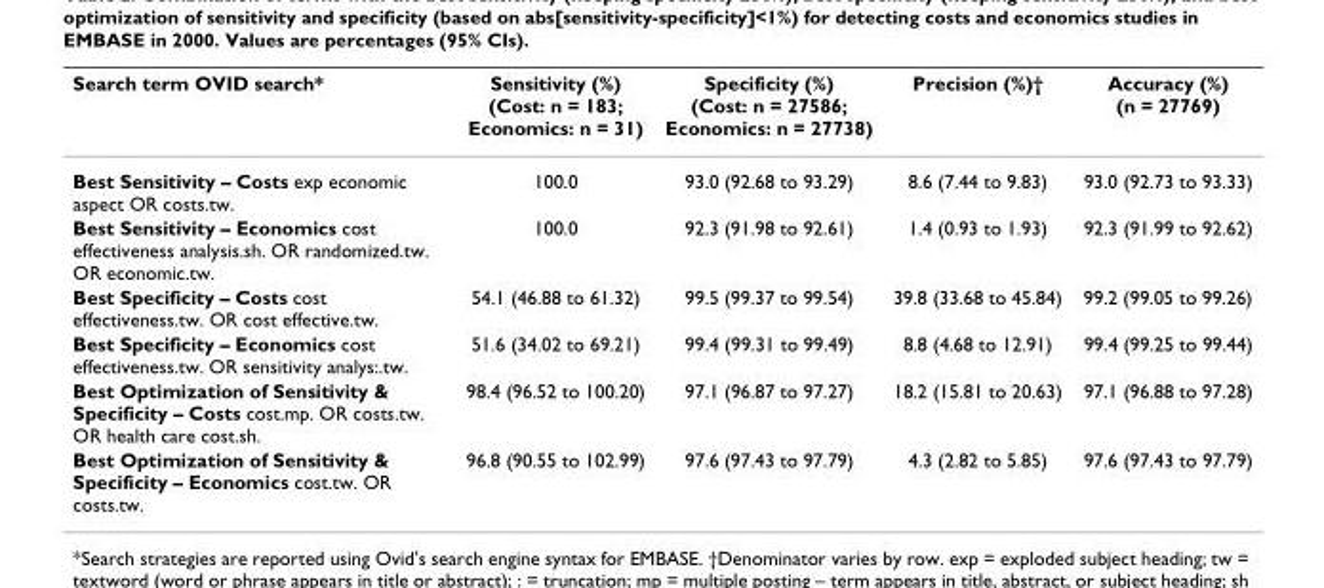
<table><thead><tr><td>Search term OVID search*</td><td>Sensitivity (%) (Cost: n = 183; Economics: n = 31)</td><td>Specificity (%) (Cost: n = 27586; Economics: n = 27738)</td><td>Precision (%)†</td><td>Accuracy (%) (n = 27769)</td></tr></thead><tbody><tr><td>Best Sensitivity – Costs exp economic aspect OR costs.tw.</td><td>100.0</td><td>93.0 (92.68 to 93.29)</td><td>8.6 (7.44 to 9.83)</td><td>93.0 (92.73 to 93.33)</td></tr><tr><td>Best Sensitivity – Economics cost effectiveness analysis.sh. OR randomized.tw. OR economic.tw.</td><td>100.0</td><td>92.3 (91.98 to 92.61)</td><td>1.4 (0.93 to 1.93)</td><td>92.3 (91.99 to 92.62)</td></tr><tr><td>Best Specificity – Costs cost effectiveness.tw. OR cost effective.tw.</td><td>54.1 (46.88 to 61.32)</td><td>99.5 (99.37 to 99.54)</td><td>39.8 (33.68 to 45.84)</td><td>99.2 (99.05 to 99.26)</td></tr><tr><td>Best Specificity – Economics cost effectiveness.tw. OR sensitivity analys:.tw.</td><td>51.6 (34.02 to 69.21)</td><td>99.4 (99.31 to 99.49)</td><td>8.8 (4.68 to 12.91)</td><td>99.4 (99.25 to 99.44)</td></tr><tr><td>Best Optimization of Sensitivity &amp; Specificity – Costs cost.mp. OR costs.tw. OR health care cost.sh.</td><td>98.4 (96.52 to 100.20)</td><td>97.1 (96.87 to 97.27)</td><td>18.2 (15.81 to 20.63)</td><td>97.1 (96.88 to 97.28)</td></tr><tr><td>Best Optimization of Sensitivity &amp; Specificity – Economics cost.tw. OR costs.tw.</td><td>96.8 (90.55 to 102.99)</td><td>97.6 (97.43 to 97.79)</td><td>4.3 (2.82 to 5.85)</td><td>97.6 (97.43 to 97.79)</td></tr></tbody></table>